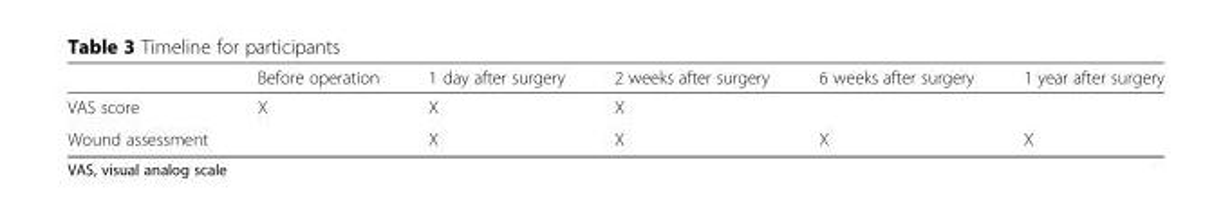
<table><thead><tr><td></td><td>Before operation</td><td>1 day after surgery</td><td>2 weeks after surgery</td><td>6 weeks after surgery</td><td>1 year after surgery</td></tr></thead><tbody><tr><td>VAS score</td><td>X</td><td>X</td><td>X</td><td></td><td></td></tr><tr><td>Wound assessment</td><td></td><td>X</td><td>X</td><td>X</td><td>X</td></tr></tbody></table>